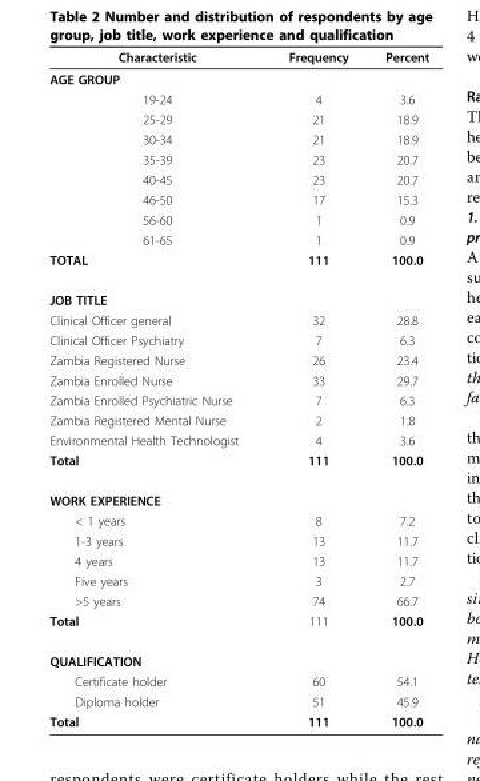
<table><thead><tr><td>Characteristic</td><td>Frequency</td><td>Percent</td></tr></thead><tbody><tr><td colspan="3">AGE GROUP</td></tr><tr><td>19-24</td><td>4</td><td>3.6</td></tr><tr><td>25-29</td><td>21</td><td>18.9</td></tr><tr><td>30-34</td><td>21</td><td>18.9</td></tr><tr><td>35-39</td><td>23</td><td>20.7</td></tr><tr><td>40-45</td><td>23</td><td>20.7</td></tr><tr><td>46-50</td><td>17</td><td>15.3</td></tr><tr><td>56-60</td><td>1</td><td>0.9</td></tr><tr><td>61-65</td><td>1</td><td>0.9</td></tr><tr><td>TOTAL</td><td>111</td><td>100.0</td></tr><tr><td colspan="3">JOB TITLE</td></tr><tr><td>Clinical Officer general</td><td>32</td><td>28.8</td></tr><tr><td>Clinical Officer Psychiatry</td><td>7</td><td>6.3</td></tr><tr><td>Zambia Registered Nurse</td><td>26</td><td>23.4</td></tr><tr><td>Zambia Enrolled Nurse</td><td>33</td><td>29.7</td></tr><tr><td>Zambia Enrolled Psychiatric Nurse</td><td>7</td><td>6.3</td></tr><tr><td>Zambia Registered Mental Nurse</td><td>2</td><td>1.8</td></tr><tr><td>Environmental Health Technologist</td><td>4</td><td>3.6</td></tr><tr><td>Total</td><td>111</td><td>100.0</td></tr><tr><td colspan="3">WORK EXPERIENCE</td></tr><tr><td>&lt; 1 years</td><td>8</td><td>7.2</td></tr><tr><td>1-3 years</td><td>13</td><td>11.7</td></tr><tr><td>4 years</td><td>13</td><td>11.7</td></tr><tr><td>Five years</td><td>3</td><td>2.7</td></tr><tr><td>&gt;5 years</td><td>74</td><td>66.7</td></tr><tr><td>Total</td><td>111</td><td>100.0</td></tr><tr><td colspan="3">QUALIFICATION</td></tr><tr><td>Certificate holder</td><td>60</td><td>54.1</td></tr><tr><td>Diploma holder</td><td>51</td><td>45.9</td></tr><tr><td>Total</td><td>111</td><td>100.0</td></tr></tbody></table>